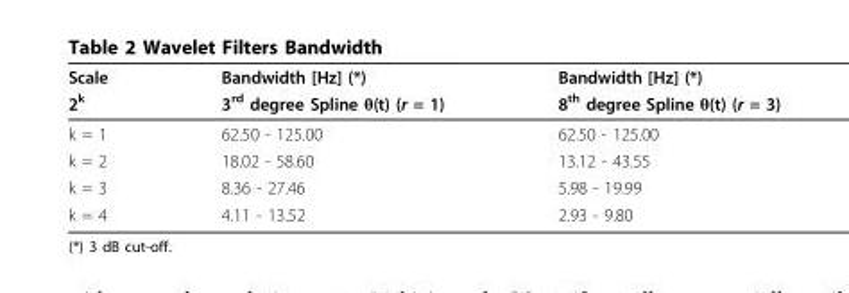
<table><thead><tr><td rowspan="2">Scale 2<sup>k</sup></td><td rowspan="2">Bandwidth [Hz] (*) 3<sup>rd</sup> degree Spline θ(t) (r = 1)</td><td rowspan="2">Bandwidth [Hz] (*) 8<sup>th</sup> degree Spline θ(t) (r = 3)</td></tr><tr></tr></thead><tbody><tr><td>k = 1</td><td>62.50 - 125.00</td><td>62.50 - 125.00</td></tr><tr><td>k = 2</td><td>18.02 - 58.60</td><td>13.12 - 43.55</td></tr><tr><td>k = 3</td><td>8.36 - 27.46</td><td>5.98 - 19.99</td></tr><tr><td>k = 4</td><td>4.11 - 13.52</td><td>2.93 - 9.80</td></tr></tbody></table>